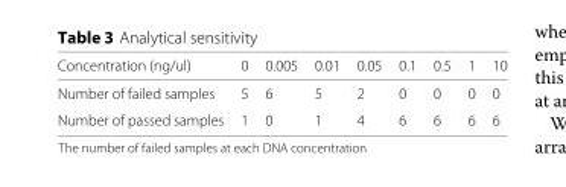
<table><thead><tr><td>Concentration (ng/ul)</td><td>0</td><td>0.005</td><td>0.01</td><td>0.05</td><td>0.1</td><td>0.5</td><td>1</td><td>10</td></tr></thead><tbody><tr><td>Number of failed samples</td><td>5</td><td>6</td><td>5</td><td>2</td><td>0</td><td>0</td><td>0</td><td>0</td></tr><tr><td>Number of passed samples</td><td>1</td><td>0</td><td>1</td><td>4</td><td>6</td><td>6</td><td>6</td><td>6</td></tr></tbody></table>